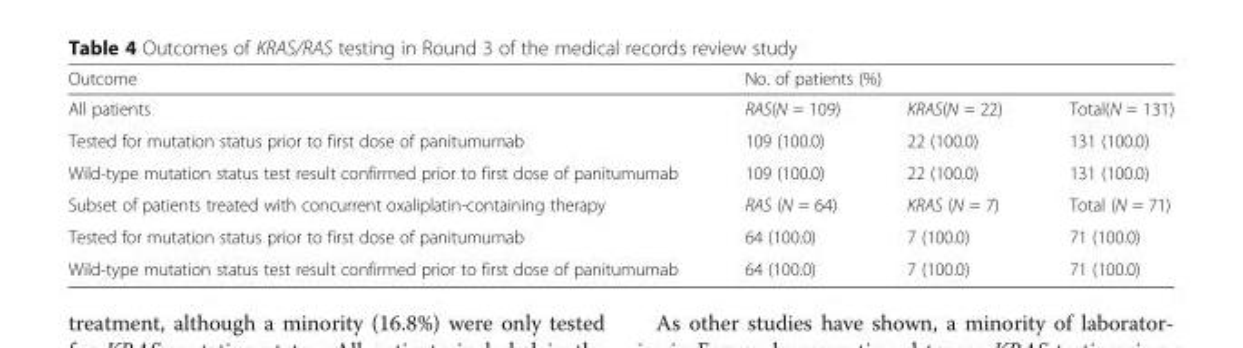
<table><thead><tr><td rowspan="2">Outcome All patients</td><td colspan="3">No. of patients (%)</td></tr><tr><td>RAS(N = 109)</td><td>KRAS(N = 22)</td><td>Total(N = 131)</td></tr></thead><tbody><tr><td>Tested for mutation status prior to first dose of panitumumab</td><td>109 (100.0)</td><td>22 (100.0)</td><td>131 (100.0)</td></tr><tr><td>Wild-type mutation status test result confirmed prior to first dose of panitumumab</td><td>109 (100.0)</td><td>22 (100.0)</td><td>131 (100.0)</td></tr><tr><td>Subset of patients treated with concurrent oxaliplatin-containing therapy</td><td>RAS (N = 64)</td><td>KRAS (N = 7)</td><td>Total (N = 71)</td></tr><tr><td>Tested for mutation status prior to first dose of panitumumab</td><td>64 (100.0)</td><td>7 (100.0)</td><td>71 (100.0)</td></tr><tr><td>Wild-type mutation status test result confirmed prior to first dose of panitumumab</td><td>64 (100.0)</td><td>7 (100.0)</td><td>71 (100.0)</td></tr></tbody></table>